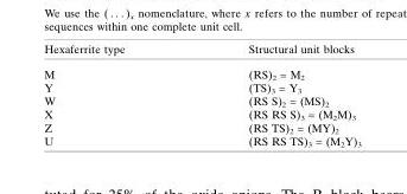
<table><thead><tr><td>Hexaferrite type</td><td>Structural unit blocks</td></tr></thead><tbody><tr><td>M</td><td>(RS)<sub>2</sub> = M<sub>2</sub></td></tr><tr><td>Y</td><td>(TS)<sub>3</sub> = Y<sub>3</sub></td></tr><tr><td>W</td><td>(RS S)<sub>2</sub> = (MS)<sub>2</sub></td></tr><tr><td>X</td><td>(RS RS S)<sub>3</sub> = (M<sub>2</sub>M)<sub>3</sub></td></tr><tr><td>Z</td><td>(RS TS)<sub>2</sub> = (MY)<sub>2</sub></td></tr><tr><td>U</td><td>(RS RS TS)<sub>3</sub> = (M<sub>2</sub>Y)<sub>3</sub></td></tr></tbody></table>